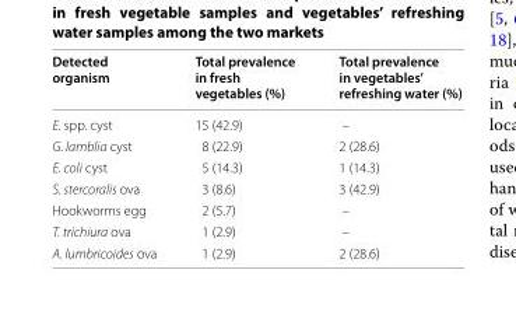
<table><thead><tr><td>Detected organism</td><td>Total prevalence in fresh vegetables (%)</td><td>Total prevalence in vegetables’ refreshing water (%)</td></tr></thead><tbody><tr><td>E. spp. cyst</td><td>15 (42.9)</td><td>–</td></tr><tr><td>G. lamblia cyst</td><td>8 (22.9)</td><td>2 (28.6)</td></tr><tr><td>E. coli cyst</td><td>5 (14.3)</td><td>1 (14.3)</td></tr><tr><td>S. stercoralis ova</td><td>3 (8.6)</td><td>3 (42.9)</td></tr><tr><td>Hookworms egg</td><td>2 (5.7)</td><td>–</td></tr><tr><td>T. trichiura ova</td><td>1 (2.9)</td><td>–</td></tr><tr><td>A. lumbricoides ova</td><td>1 (2.9)</td><td>2 (28.6)</td></tr></tbody></table>